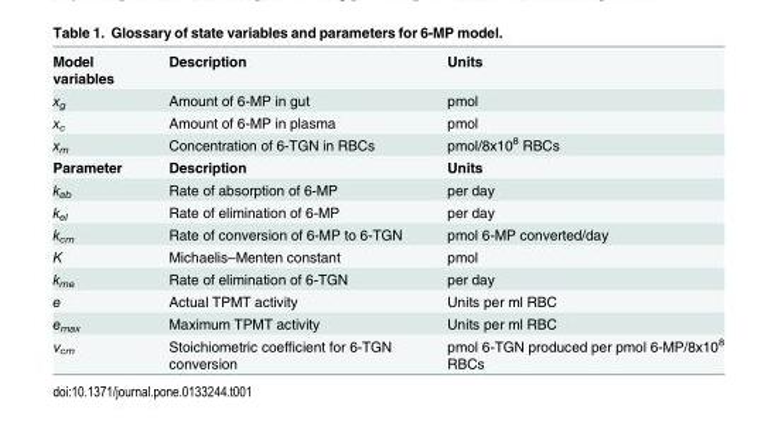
<table><tbody><tr><td>Model variables</td><td>Description</td><td>Units</td></tr><tr><td>x<sub>g</sub></td><td>Amount of 6-MP in gut</td><td>pmol</td></tr><tr><td>x<sub>c</sub></td><td>Amount of 6-MP in plasma</td><td>pmol</td></tr><tr><td>x<sub>m</sub></td><td>Concentration of 6-TGN in RBCs</td><td>pmol/8x10<sup>8</sup> RBCs</td></tr><tr><td>Parameter</td><td>Description</td><td>Units</td></tr><tr><td>k<sub>ab</sub></td><td>Rate of absorption of 6-MP</td><td>per day</td></tr><tr><td>k<sub>el</sub></td><td>Rate of elimination of 6-MP</td><td>per day</td></tr><tr><td>k<sub>cm</sub></td><td>Rate of conversion of 6-MP to 6-TGN</td><td>pmol 6-MP converted/day</td></tr><tr><td>K</td><td>Michaelis–Menten constant</td><td>pmol</td></tr><tr><td>k<sub>me</sub></td><td>Rate of elimination of 6-TGN</td><td>per day</td></tr><tr><td>e</td><td>Actual TPMT activity</td><td>Units per ml RBC</td></tr><tr><td>e<sub>max</sub></td><td>Maximum TPMT activity</td><td>Units per ml RBC</td></tr><tr><td>ν<sub>cm</sub></td><td>Stoichiometric coefficient for 6-TGN conversion</td><td>pmol 6-TGN produced per pmol 6-MP/8x10<sup>8</sup> RBCs</td></tr></tbody></table>